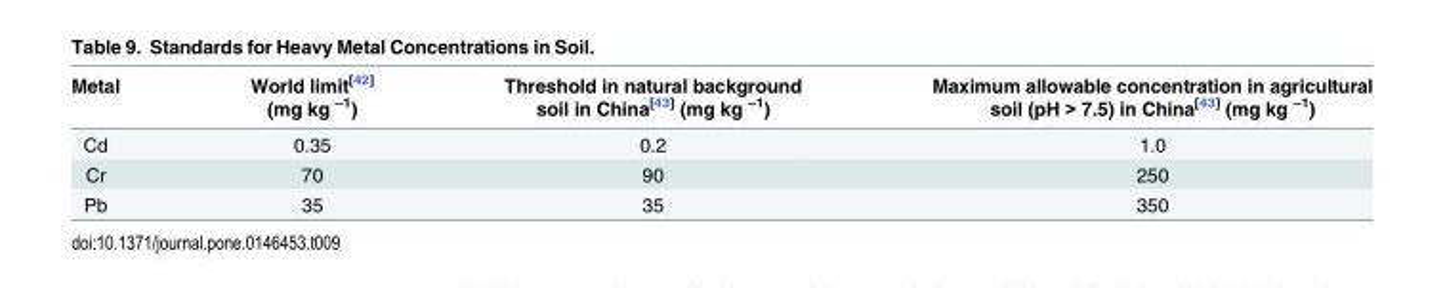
<table><thead><tr><td>Metal</td><td>World limit<sup>[42]</sup> (mg kg <sup>–1</sup>)</td><td>Threshold in natural background soil in China<sup>[43]</sup> (mg kg <sup>–1</sup>)</td><td>Maximum allowable concentration in agricultural soil (pH &gt; 7.5) in China<sup>[43]</sup> (mg kg <sup>–1</sup>)</td></tr></thead><tbody><tr><td>Cd</td><td>0.35</td><td>0.2</td><td>1.0</td></tr><tr><td>Cr</td><td>70</td><td>90</td><td>250</td></tr><tr><td>Pb</td><td>35</td><td>35</td><td>350</td></tr></tbody></table>